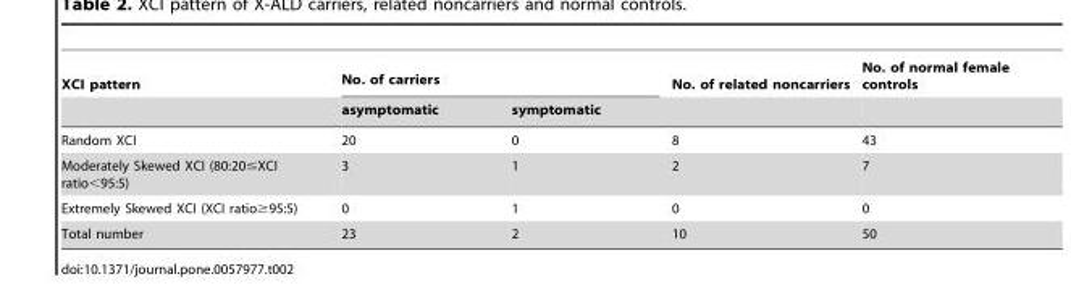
<table><thead><tr><td rowspan="2">XCI pattern</td><td colspan="2">No. of carriers</td><td rowspan="2">No. of related noncarriers</td><td rowspan="2">No. of normal female controls</td></tr><tr><td>asymptomatic</td><td>symptomatic</td></tr></thead><tbody><tr><td>Random XCI</td><td>20</td><td>0</td><td>8</td><td>43</td></tr><tr><td>Moderately Skewed XCI (80:20≤XCI ratio&lt;95:5)</td><td>3</td><td>1</td><td>2</td><td>7</td></tr><tr><td>Extremely Skewed XCI (XCI ratio≥95:5)</td><td>0</td><td>1</td><td>0</td><td>0</td></tr><tr><td>Total number</td><td>23</td><td>2</td><td>10</td><td>50</td></tr></tbody></table>